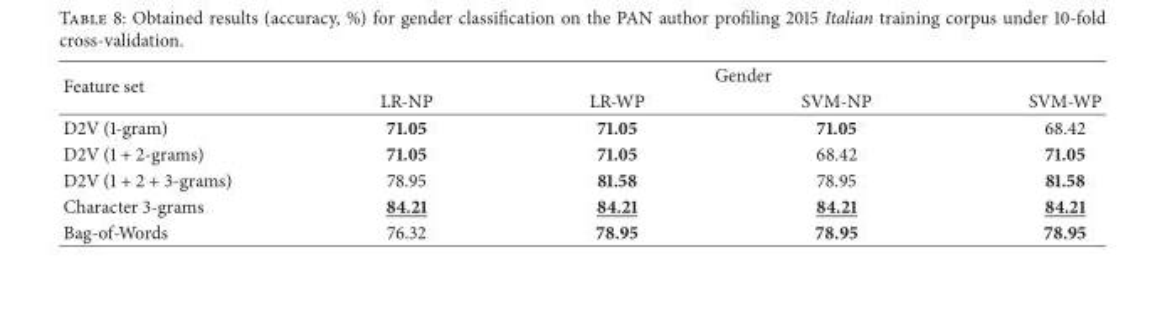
<table><thead><tr><td rowspan="2">Feature set</td><td colspan="4">Gender</td></tr><tr><td>LR-NP</td><td>LR-WP</td><td>SVM-NP</td><td>SVM-WP</td></tr></thead><tbody><tr><td>D2V (1-gram)</td><td>71.05</td><td>71.05</td><td>71.05</td><td>68.42</td></tr><tr><td>D2V (1 + 2-grams)</td><td>71.05</td><td>71.05</td><td>68.42</td><td>71.05</td></tr><tr><td>D2V (1 + 2 + 3-grams)</td><td>78.95</td><td>81.58</td><td>78.95</td><td>81.58</td></tr><tr><td>Character 3-grams</td><td>84.21</td><td>84.21</td><td>84.21</td><td>84.21</td></tr><tr><td>Bag-of-Words</td><td>76.32</td><td>78.95</td><td>78.95</td><td>78.95</td></tr></tbody></table>